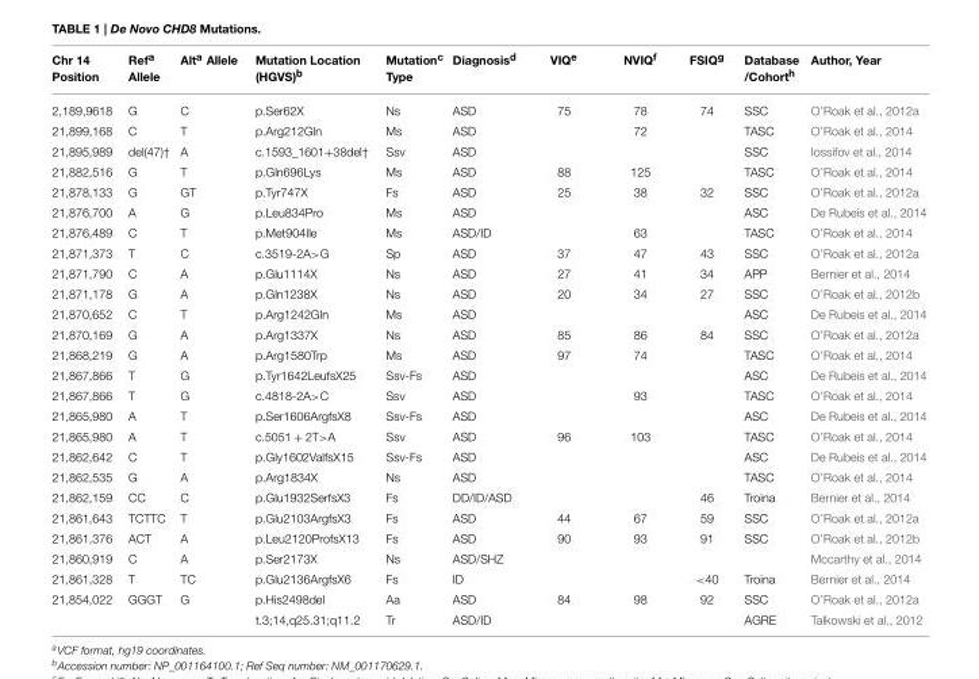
<table><thead><tr><td>Chr 14 Position</td><td>Ref<sup>a</sup> Allele</td><td>Alt<sup>a</sup> Allele</td><td>Mutation Location (HGVS)<sup>b</sup></td><td>Mutation<sup>c</sup> Type</td><td>Diagnosis<sup>d</sup></td><td>VIQ<sup>e</sup></td><td>NVIQ<sup>f</sup></td><td>FSIQ<sup>g</sup></td><td>Database /Cohort<sup>h</sup></td><td>Author, Year</td></tr></thead><tbody><tr><td>2,189,9618</td><td>G</td><td>C</td><td>p.Ser62X</td><td>Ns</td><td>ASD</td><td>75</td><td>78</td><td>74</td><td>SSC</td><td>O’Roak et al., 2012a</td></tr><tr><td>21,899,168</td><td>C</td><td>T</td><td>p.Arg212Gln</td><td>Ms</td><td>ASD</td><td></td><td>72</td><td></td><td>TASC</td><td>O’Roak et al., 2014</td></tr><tr><td>21,895,989</td><td>del(47)<sup>†</sup></td><td>A</td><td>c.1593_1601+38del<sup>†</sup></td><td>Ssv</td><td>ASD</td><td></td><td></td><td></td><td>SSC</td><td>Iossifov et al., 2014</td></tr><tr><td>21,882,516</td><td>G</td><td>T</td><td>p.Gln696Lys</td><td>Ms</td><td>ASD</td><td>88</td><td>125</td><td></td><td>TASC</td><td>O’Roak et al., 2014</td></tr><tr><td>21,878,133</td><td>G</td><td>GT</td><td>p.Tyr747X</td><td>Fs</td><td>ASD</td><td>25</td><td>38</td><td>32</td><td>SSC</td><td>O’Roak et al., 2012a</td></tr><tr><td>21,876,700</td><td>A</td><td>G</td><td>p.Leu834Pro</td><td>Ms</td><td>ASD</td><td></td><td></td><td></td><td>ASC</td><td>De Rubeis et al., 2014</td></tr><tr><td>21,876,489</td><td>C</td><td>T</td><td>p.Met904Ile</td><td>Ms</td><td>ASD/ID</td><td></td><td>63</td><td></td><td>TASC</td><td>O’Roak et al., 2014</td></tr><tr><td>21,871,373</td><td>T</td><td>C</td><td>c.3519-2A&gt;G</td><td>Sp</td><td>ASD</td><td>37</td><td>47</td><td>43</td><td>SSC</td><td>O’Roak et al., 2012a</td></tr><tr><td>21,871,790</td><td>C</td><td>A</td><td>p.Glu1114X</td><td>Ns</td><td>ASD</td><td>27</td><td>41</td><td>34</td><td>APP</td><td>Bernier et al., 2014</td></tr><tr><td>21,871,178</td><td>G</td><td>A</td><td>p.Gln1238X</td><td>Ns</td><td>ASD</td><td>20</td><td>34</td><td>27</td><td>SSC</td><td>O’Roak et al., 2012b</td></tr><tr><td>21,870,652</td><td>C</td><td>T</td><td>p.Arg1242Gln</td><td>Ms</td><td>ASD</td><td></td><td></td><td></td><td>ASC</td><td>De Rubeis et al., 2014</td></tr><tr><td>21,870,169</td><td>G</td><td>A</td><td>p.Arg1337X</td><td>Ns</td><td>ASD</td><td>85</td><td>86</td><td>84</td><td>SSC</td><td>O’Roak et al., 2012a</td></tr><tr><td>21,868,219</td><td>G</td><td>A</td><td>p.Arg1580Trp</td><td>Ms</td><td>ASD</td><td>97</td><td>74</td><td></td><td>TASC</td><td>O’Roak et al., 2014</td></tr><tr><td>21,867,866</td><td>T</td><td>G</td><td>p.Tyr1642LeufsX25</td><td>Ssv-Fs</td><td>ASD</td><td></td><td></td><td></td><td>ASC</td><td>De Rubeis et al., 2014</td></tr><tr><td>21,867,866</td><td>T</td><td>G</td><td>c.4818-2A&gt;C</td><td>Ssv</td><td>ASD</td><td></td><td>93</td><td></td><td>TASC</td><td>O’Roak et al., 2014</td></tr><tr><td>21,865,980</td><td>A</td><td>T</td><td>p.Ser1606ArgfsX8</td><td>Ssv-Fs</td><td>ASD</td><td></td><td></td><td></td><td>ASC</td><td>De Rubeis et al., 2014</td></tr><tr><td>21,865,980</td><td>A</td><td>T</td><td>c.5051 + 2T&gt;A</td><td>Ssv</td><td>ASD</td><td>96</td><td>103</td><td></td><td>TASC</td><td>O’Roak et al., 2014</td></tr><tr><td>21,862,642</td><td>C</td><td>T</td><td>p.Gly1602ValfsX15</td><td>Ssv-Fs</td><td>ASD</td><td></td><td></td><td></td><td>ASC</td><td>De Rubeis et al., 2014</td></tr><tr><td>21,862,535</td><td>G</td><td>A</td><td>p.Arg1834X</td><td>Ns</td><td>ASD</td><td></td><td></td><td></td><td>TASC</td><td>O’Roak et al., 2014</td></tr><tr><td>21,862,159</td><td>CC</td><td>C</td><td>p.Glu1932SerfsX3</td><td>Fs</td><td>DD/ID/ASD</td><td></td><td></td><td>46</td><td>Troina</td><td>Bernier et al., 2014</td></tr><tr><td>21,861,643</td><td>TCTTC</td><td>T</td><td>p.Glu2103ArgfsX3</td><td>Fs</td><td>ASD</td><td>44</td><td>67</td><td>59</td><td>SSC</td><td>O’Roak et al., 2012a</td></tr><tr><td>21,861,376</td><td>ACT</td><td>A</td><td>p.Leu2120ProfsX13</td><td>Fs</td><td>ASD</td><td>90</td><td>93</td><td>91</td><td>SSC</td><td>O’Roak et al., 2012b</td></tr><tr><td>21,860,919</td><td>C</td><td>A</td><td>p.Ser2173X</td><td>Ns</td><td>ASD/SHZ</td><td></td><td></td><td></td><td></td><td>Mccarthy et al., 2014</td></tr><tr><td>21,861,328</td><td>T</td><td>TC</td><td>p.Glu2136ArgfsX6</td><td>Fs</td><td>ID</td><td></td><td></td><td>&lt;40</td><td>Troina</td><td>Bernier et al., 2014</td></tr><tr><td rowspan="2">21,854,022</td><td>GGGT</td><td>G</td><td>p.His2498del</td><td>Aa</td><td>ASD</td><td>84</td><td>98</td><td>92</td><td>SSC</td><td>O’Roak et al., 2012a</td></tr><tr><td></td><td></td><td>t.3;14,q25.31;q11.2</td><td>Tr</td><td>ASD/ID</td><td></td><td></td><td></td><td>AGRE</td><td>Talkowski et al., 2012</td></tr></tbody></table>